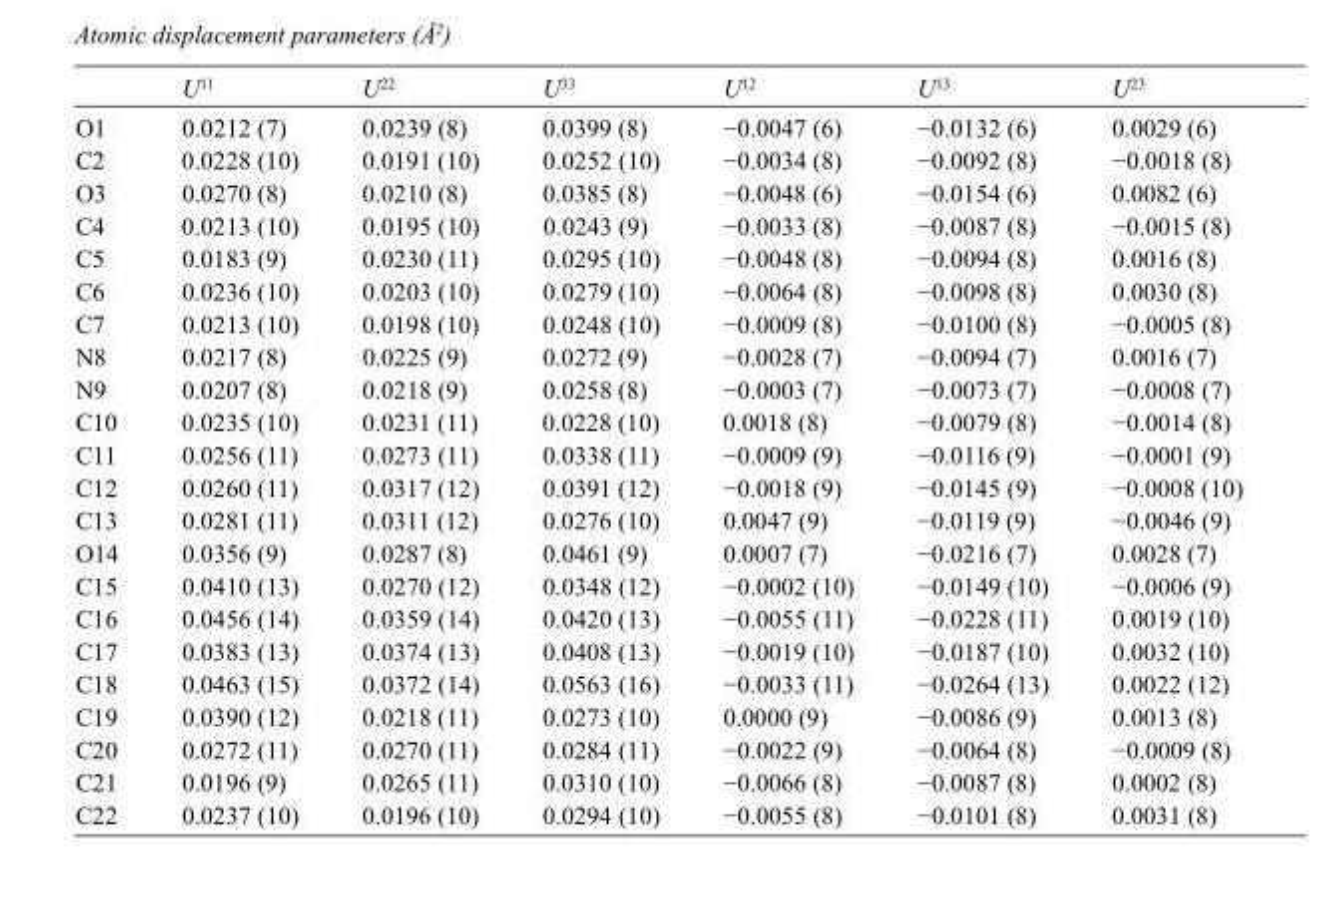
<table><thead><tr><td></td><td>U<sup>11</sup></td><td>U<sup>22</sup></td><td>U<sup>33</sup></td><td>U<sup>12</sup></td><td>U<sup>13</sup></td><td>U<sup>23</sup></td></tr></thead><tbody><tr><td>O1</td><td>0.0212 (7)</td><td>0.0239 (8)</td><td>0.0399 (8)</td><td>−0.0047 (6)</td><td>−0.0132 (6)</td><td>0.0029 (6)</td></tr><tr><td>C2</td><td>0.0228 (10)</td><td>0.0191 (10)</td><td>0.0252 (10)</td><td>−0.0034 (8)</td><td>−0.0092 (8)</td><td>−0.0018 (8)</td></tr><tr><td>O3</td><td>0.0270 (8)</td><td>0.0210 (8)</td><td>0.0385 (8)</td><td>−0.0048 (6)</td><td>−0.0154 (6)</td><td>0.0082 (6)</td></tr><tr><td>C4</td><td>0.0213 (10)</td><td>0.0195 (10)</td><td>0.0243 (9)</td><td>−0.0033 (8)</td><td>−0.0087 (8)</td><td>−0.0015 (8)</td></tr><tr><td>C5</td><td>0.0183 (9)</td><td>0.0230 (11)</td><td>0.0295 (10)</td><td>−0.0048 (8)</td><td>−0.0094 (8)</td><td>0.0016 (8)</td></tr><tr><td>C6</td><td>0.0236 (10)</td><td>0.0203 (10)</td><td>0.0279 (10)</td><td>−0.0064 (8)</td><td>−0.0098 (8)</td><td>0.0030 (8)</td></tr><tr><td>C7</td><td>0.0213 (10)</td><td>0.0198 (10)</td><td>0.0248 (10)</td><td>−0.0009 (8)</td><td>−0.0100 (8)</td><td>−0.0005 (8)</td></tr><tr><td>N8</td><td>0.0217 (8)</td><td>0.0225 (9)</td><td>0.0272 (9)</td><td>−0.0028 (7)</td><td>−0.0094 (7)</td><td>0.0016 (7)</td></tr><tr><td>N9</td><td>0.0207 (8)</td><td>0.0218 (9)</td><td>0.0258 (8)</td><td>−0.0003 (7)</td><td>−0.0073 (7)</td><td>−0.0008 (7)</td></tr><tr><td>C10</td><td>0.0235 (10)</td><td>0.0231 (11)</td><td>0.0228 (10)</td><td>0.0018 (8)</td><td>−0.0079 (8)</td><td>−0.0014 (8)</td></tr><tr><td>C11</td><td>0.0256 (11)</td><td>0.0273 (11)</td><td>0.0338 (11)</td><td>−0.0009 (9)</td><td>−0.0116 (9)</td><td>−0.0001 (9)</td></tr><tr><td>C12</td><td>0.0260 (11)</td><td>0.0317 (12)</td><td>0.0391 (12)</td><td>−0.0018 (9)</td><td>−0.0145 (9)</td><td>−0.0008 (10)</td></tr><tr><td>C13</td><td>0.0281 (11)</td><td>0.0311 (12)</td><td>0.0276 (10)</td><td>0.0047 (9)</td><td>−0.0119 (9)</td><td>−0.0046 (9)</td></tr><tr><td>O14</td><td>0.0356 (9)</td><td>0.0287 (8)</td><td>0.0461 (9)</td><td>0.0007 (7)</td><td>−0.0216 (7)</td><td>0.0028 (7)</td></tr><tr><td>C15</td><td>0.0410 (13)</td><td>0.0270 (12)</td><td>0.0348 (12)</td><td>−0.0002 (10)</td><td>−0.0149 (10)</td><td>−0.0006 (9)</td></tr><tr><td>C16</td><td>0.0456 (14)</td><td>0.0359 (14)</td><td>0.0420 (13)</td><td>−0.0055 (11)</td><td>−0.0228 (11)</td><td>0.0019 (10)</td></tr><tr><td>C17</td><td>0.0383 (13)</td><td>0.0374 (13)</td><td>0.0408 (13)</td><td>−0.0019 (10)</td><td>−0.0187 (10)</td><td>0.0032 (10)</td></tr><tr><td>C18</td><td>0.0463 (15)</td><td>0.0372 (14)</td><td>0.0563 (16)</td><td>−0.0033 (11)</td><td>−0.0264 (13)</td><td>0.0022 (12)</td></tr><tr><td>C19</td><td>0.0390 (12)</td><td>0.0218 (11)</td><td>0.0273 (10)</td><td>0.0000 (9)</td><td>−0.0086 (9)</td><td>0.0013 (8)</td></tr><tr><td>C20</td><td>0.0272 (11)</td><td>0.0270 (11)</td><td>0.0284 (11)</td><td>−0.0022 (9)</td><td>−0.0064 (8)</td><td>−0.0009 (8)</td></tr><tr><td>C21</td><td>0.0196 (9)</td><td>0.0265 (11)</td><td>0.0310 (10)</td><td>−0.0066 (8)</td><td>−0.0087 (8)</td><td>0.0002 (8)</td></tr><tr><td>C22</td><td>0.0237 (10)</td><td>0.0196 (10)</td><td>0.0294 (10)</td><td>−0.0055 (8)</td><td>−0.0101 (8)</td><td>0.0031 (8)</td></tr></tbody></table>